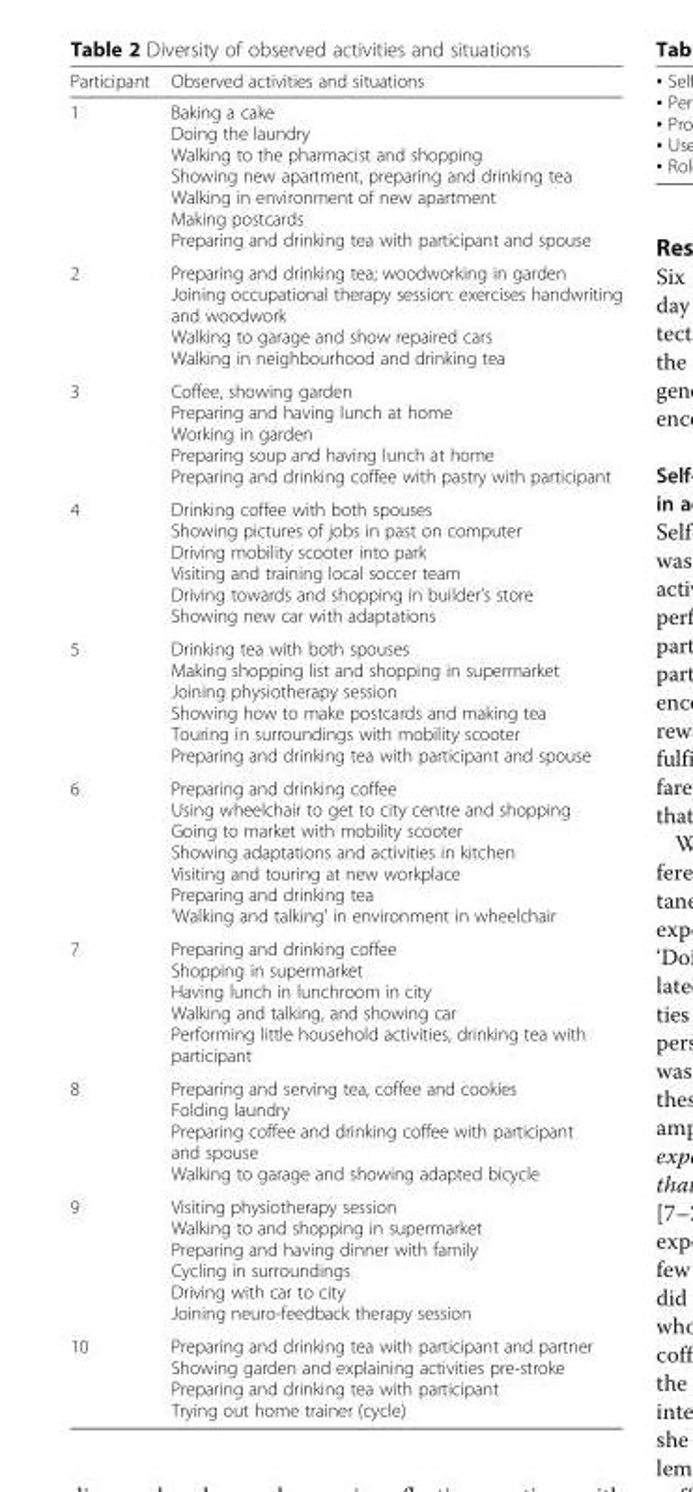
<table><thead><tr><td>Participant</td><td>Observed activities and situations</td></tr></thead><tbody><tr><td>1</td><td>Baking a cake Doing the laundry Walking to the pharmacist and shopping Showing new apartment, preparing and drinking tea Walking in environment of new apartment Making postcards Preparing and drinking tea with participant and spouse</td></tr><tr><td>2</td><td>Preparing and drinking tea; woodworking in garden Joining occupational therapy session: exercises handwriting and woodwork Walking to garage and show repaired cars Walking in neighbourhood and drinking tea</td></tr><tr><td>3</td><td>Coffee, showing garden Preparing and having lunch at home Working in garden Preparing soup and having lunch at home Preparing and drinking coffee with pastry with participant</td></tr><tr><td>4</td><td>Drinking coffee with both spouses Showing pictures of jobs in past on computer Driving mobility scooter into park Visiting and training local soccer team Driving towards and shopping in builder’s store Showing new car with adaptations</td></tr><tr><td>5</td><td>Drinking tea with both spouses Making shopping list and shopping in supermarket Joining physiotherapy session Showing how to make postcards and making tea Touring in surroundings with mobility scooter Preparing and drinking tea with participant and spouse</td></tr><tr><td>6</td><td>Preparing and drinking coffee Using wheelchair to get to city centre and shopping Going to market with mobility scooter Showing adaptations and activities in kitchen Visiting and touring at new workplace Preparing and drinking tea ‘Walking and talking’ in environment in wheelchair</td></tr><tr><td>7</td><td>Preparing and drinking coffee Shopping in supermarket Having lunch in lunchroom in city Walking and talking, and showing car Performing little household activities, drinking tea with participant</td></tr><tr><td>8</td><td>Preparing and serving tea, coffee and cookies Folding laundry Preparing coffee and drinking coffee with participant and spouse Walking to garage and showing adapted bicycle</td></tr><tr><td>9</td><td>Visiting physiotherapy session Walking to and shopping in supermarket Preparing and having dinner with family Cycling in surroundings Driving with car to city Joining neuro-feedback therapy session</td></tr><tr><td>10</td><td>Preparing and drinking tea with participant and partner Showing garden and explaining activities pre-stroke Preparing and drinking tea with participant Trying out home trainer (cycle)</td></tr></tbody></table>